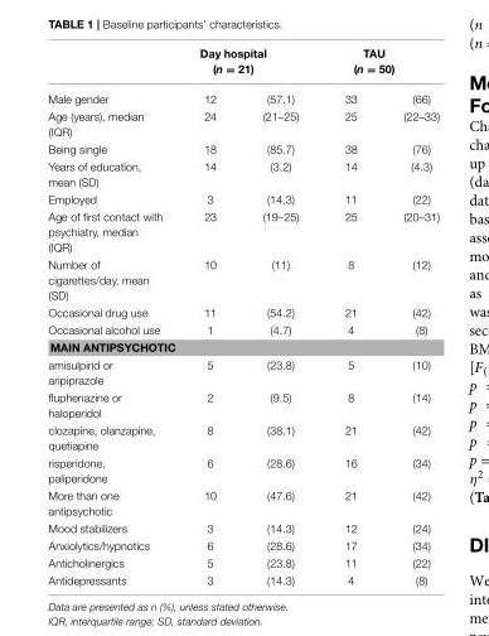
<table><thead><tr><td rowspan="2">Male gender</td><td colspan="2">Day hospital (n = 21)</td><td colspan="2">TAU (n = 50)</td></tr><tr><td>12</td><td>(57.1)</td><td>33</td><td>(66)</td></tr></thead><tbody><tr><td>Age (years), median (IQR)</td><td>24</td><td>(21–25)</td><td>25</td><td>(22–33)</td></tr><tr><td>Being single</td><td>18</td><td>(85.7)</td><td>38</td><td>(76)</td></tr><tr><td>Years of education, mean (SD)</td><td>14</td><td>(3.2)</td><td>14</td><td>(4.3)</td></tr><tr><td>Employed</td><td>3</td><td>(14.3)</td><td>11</td><td>(22)</td></tr><tr><td>Age of first contact with psychiatry, median (IQR)</td><td>23</td><td>(19–25)</td><td>25</td><td>(20–31)</td></tr><tr><td>Number of cigarettes/day, mean (SD)</td><td>10</td><td>(11)</td><td>8</td><td>(12)</td></tr><tr><td>Occasional drug use</td><td>11</td><td>(54.2)</td><td>21</td><td>(42)</td></tr><tr><td>Occasional alcohol use</td><td>1</td><td>(4.7)</td><td>4</td><td>(8)</td></tr><tr><td colspan="5">MAIN ANTIPSYCHOTIC</td></tr><tr><td>amisulpirid or aripiprazole</td><td>5</td><td>(23.8)</td><td>5</td><td>(10)</td></tr><tr><td>fluphenazine or haloperidol</td><td>2</td><td>(9.5)</td><td>8</td><td>(14)</td></tr><tr><td>clozapine, olanzapine, quetiapine</td><td>8</td><td>(38.1)</td><td>21</td><td>(42)</td></tr><tr><td>risperidone, paliperidone</td><td>6</td><td>(28.6)</td><td>16</td><td>(34)</td></tr><tr><td>More than one antipsychotic</td><td>10</td><td>(47.6)</td><td>21</td><td>(42)</td></tr><tr><td>Mood stabilizers</td><td>3</td><td>(14.3)</td><td>12</td><td>(24)</td></tr><tr><td>Anxiolytics/hypnotics</td><td>6</td><td>(28.6)</td><td>17</td><td>(34)</td></tr><tr><td>Anticholinergics</td><td>5</td><td>(23.8)</td><td>11</td><td>(22)</td></tr><tr><td>Antidepressants</td><td>3</td><td>(14.3)</td><td>4</td><td>(8)</td></tr></tbody></table>